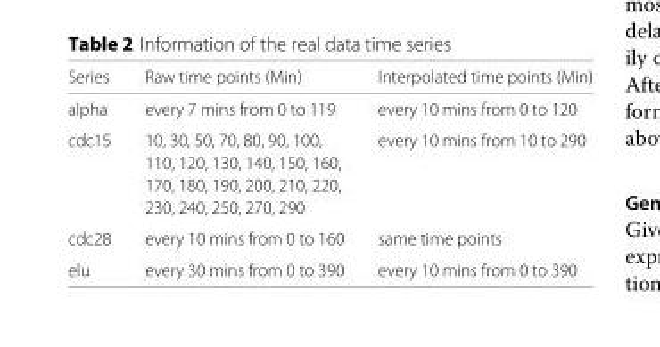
<table><thead><tr><td>Series</td><td>Raw time points (Min)</td><td>Interpolated time points (Min)</td></tr></thead><tbody><tr><td>alpha</td><td>every 7 mins from 0 to 119</td><td>every 10 mins from 0 to 120</td></tr><tr><td rowspan="4">cdc15</td><td>10, 30, 50, 70, 80, 90, 100,</td><td>every 10 mins from 10 to 290</td></tr><tr><td>110, 120, 130, 140, 150, 160,</td><td></td></tr><tr><td>170, 180, 190, 200, 210, 220,</td><td></td></tr><tr><td>230, 240, 250, 270, 290</td><td></td></tr><tr><td>cdc28</td><td>every 10 mins from 0 to 160</td><td>same time points</td></tr><tr><td>elu</td><td>every 30 mins from 0 to 390</td><td>every 10 mins from 0 to 390</td></tr></tbody></table>